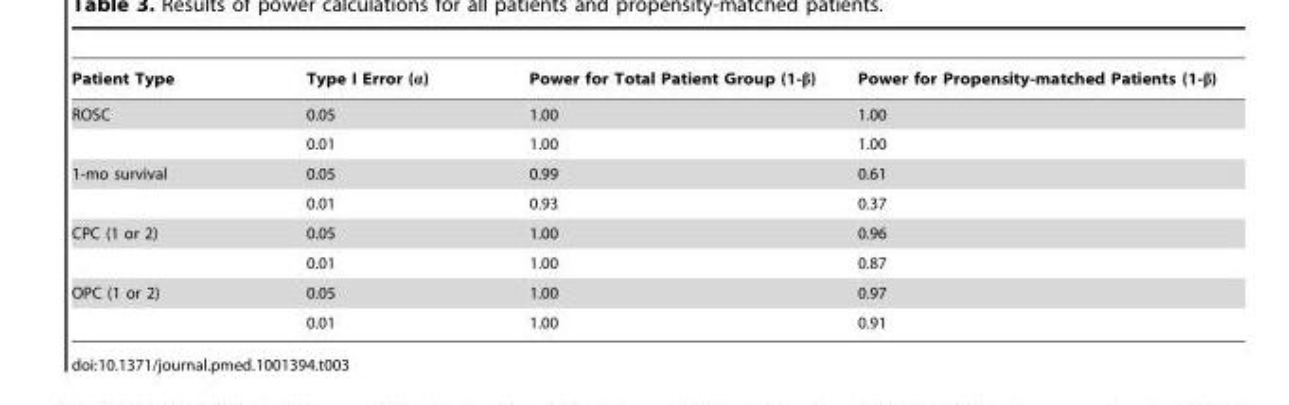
<table><thead><tr><td>Patient Type</td><td>Type I Error (α)</td><td>Power for Total Patient Group (1-β)</td><td>Power for Propensity-matched Patients (1-β)</td></tr></thead><tbody><tr><td rowspan="2">ROSC</td><td>0.05</td><td>1.00</td><td>1.00</td></tr><tr><td>0.01</td><td>1.00</td><td>1.00</td></tr><tr><td rowspan="2">1-mo survival</td><td>0.05</td><td>0.99</td><td>0.61</td></tr><tr><td>0.01</td><td>0.93</td><td>0.37</td></tr><tr><td rowspan="2">CPC (1 or 2)</td><td>0.05</td><td>1.00</td><td>0.96</td></tr><tr><td>0.01</td><td>1.00</td><td>0.87</td></tr><tr><td rowspan="2">OPC (1 or 2)</td><td>0.05</td><td>1.00</td><td>0.97</td></tr><tr><td>0.01</td><td>1.00</td><td>0.91</td></tr></tbody></table>